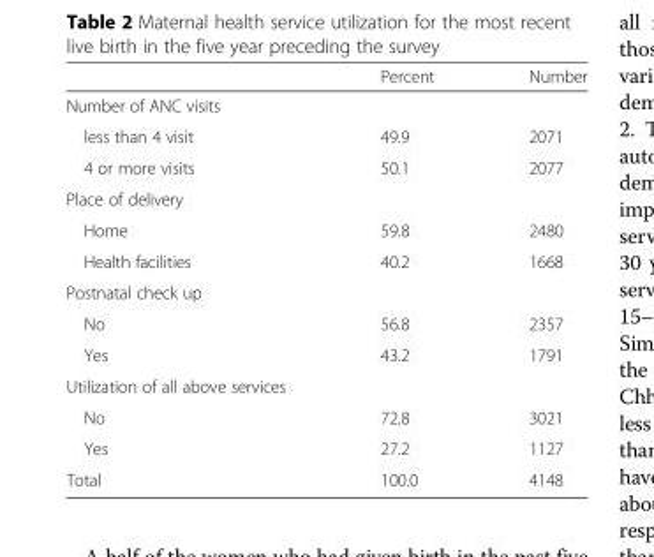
<table><thead><tr><td></td><td>Percent</td><td>Number</td></tr></thead><tbody><tr><td colspan="3">Number of ANC visits</td></tr><tr><td>less than 4 visit</td><td>49.9</td><td>2071</td></tr><tr><td>4 or more visits</td><td>50.1</td><td>2077</td></tr><tr><td colspan="3">Place of delivery</td></tr><tr><td>Home</td><td>59.8</td><td>2480</td></tr><tr><td>Health facilities</td><td>40.2</td><td>1668</td></tr><tr><td colspan="3">Postnatal check up</td></tr><tr><td>No</td><td>56.8</td><td>2357</td></tr><tr><td>Yes</td><td>43.2</td><td>1791</td></tr><tr><td colspan="3">Utilization of all above services</td></tr><tr><td>No</td><td>72.8</td><td>3021</td></tr><tr><td>Yes</td><td>27.2</td><td>1127</td></tr><tr><td>Total</td><td>100.0</td><td>4148</td></tr></tbody></table>